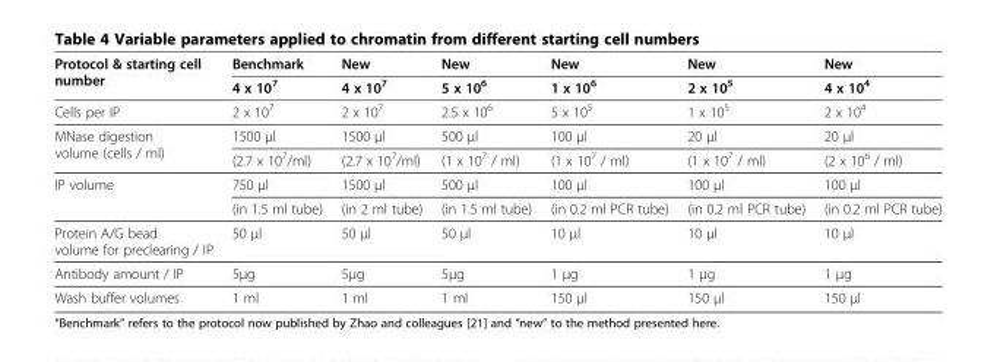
<table><thead><tr><td rowspan="2">Protocol &amp; starting cell number</td><td rowspan="2">Benchmark 4 x 10<sup>7</sup></td><td rowspan="2">New 4 x 10<sup>7</sup></td><td rowspan="2">New 5 x 10<sup>6</sup></td><td rowspan="2">New 1 x 10<sup>6</sup></td><td rowspan="2">New 2 x 10<sup>5</sup></td><td rowspan="2">New 4 x 10<sup>4</sup></td></tr><tr></tr></thead><tbody><tr><td>Cells per IP</td><td>2 x 10<sup>7</sup></td><td>2 x 10<sup>7</sup></td><td>2.5 x 10<sup>6</sup></td><td>5 x 10<sup>5</sup></td><td>1 x 10<sup>5</sup></td><td>2 x 10<sup>4</sup></td></tr><tr><td rowspan="2">MNase digestion volume (cells / ml)</td><td>1500 μl</td><td>1500 μl</td><td>500 μl</td><td>100 μl</td><td>20 μl</td><td>20 μl</td></tr><tr><td>(2.7 x 10<sup>7</sup>/ml)</td><td>(2.7 x 10<sup>7</sup>/ml)</td><td>(1 x 10<sup>7</sup> / ml)</td><td>(1 x 10<sup>7</sup> / ml)</td><td>(1 x 10<sup>7</sup> / ml)</td><td>(2 x 10<sup>6</sup> / ml)</td></tr><tr><td rowspan="2">IP volume</td><td>750 μl</td><td>1500 μl</td><td>500 μl</td><td>100 μl</td><td>100 μl</td><td>100 μl</td></tr><tr><td>(in 1.5 ml tube)</td><td>(in 2 ml tube)</td><td>(in 1.5 ml tube)</td><td>(in 0.2 ml PCR tube)</td><td>(in 0.2 ml PCR tube)</td><td>(in 0.2 ml PCR tube)</td></tr><tr><td>Protein A/G bead volume for preclearing / IP</td><td>50 μl</td><td>50 μl</td><td>50 μl</td><td>10 μl</td><td>10 μl</td><td>10 μl</td></tr><tr><td>Antibody amount / IP</td><td>5μg</td><td>5μg</td><td>5μg</td><td>1 μg</td><td>1 μg</td><td>1 μg</td></tr><tr><td>Wash buffer volumes</td><td>1 ml</td><td>1 ml</td><td>1 ml</td><td>150 μl</td><td>150 μl</td><td>150 μl</td></tr></tbody></table>